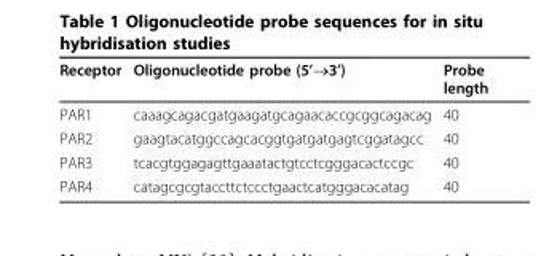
<table><thead><tr><td>Receptor</td><td>Oligonucleotide probe (5’→3’)</td><td>Probe length</td></tr></thead><tbody><tr><td>PAR1</td><td>caaagcagacgatgaagatgcagaacaccgcggcagacag</td><td>40</td></tr><tr><td>PAR2</td><td>gaagtacatggccagcacggtgatgatgagtcggatagcc</td><td>40</td></tr><tr><td>PAR3</td><td>tcacgtggagagttgaaatactgtcctcgggacactccgc</td><td>40</td></tr><tr><td>PAR4</td><td>catagcgcgtaccttctccctgaactcatgggacacatag</td><td>40</td></tr></tbody></table>